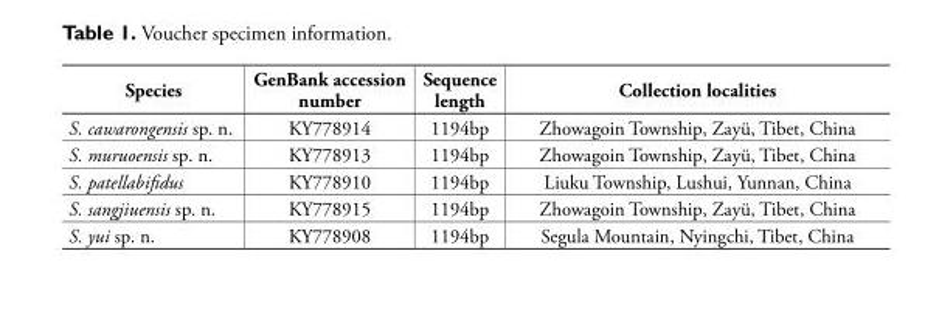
<table><thead><tr><td>Species</td><td>GenBank accession number</td><td>Sequence length</td><td>Collection localities</td></tr></thead><tbody><tr><td>S. cawarongensis sp. n.</td><td>KY778914</td><td>1194bp</td><td>Zhowagoin Township, Zayü, Tibet, China</td></tr><tr><td>S. muruoensis sp. n.</td><td>KY778913</td><td>1194bp</td><td>Zhowagoin Township, Zayü, Tibet, China</td></tr><tr><td>S. patellabifidus</td><td>KY778910</td><td>1194bp</td><td>Liuku Township, Lushui, Yunnan, China</td></tr><tr><td>S. sangjiuensis sp. n.</td><td>KY778915</td><td>1194bp</td><td>Zhowagoin Township, Zayü, Tibet, China</td></tr><tr><td>S. yui sp. n.</td><td>KY778908</td><td>1194bp</td><td>Segula Mountain, Nyingchi, Tibet, China</td></tr></tbody></table>